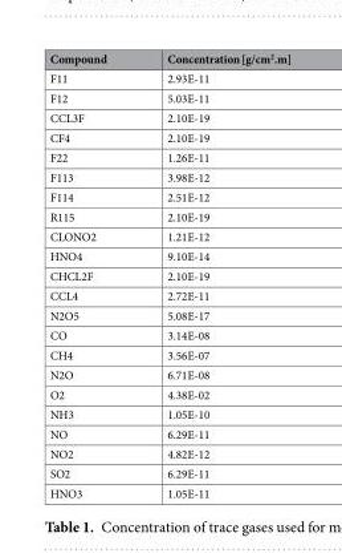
<table><thead><tr><td>Compound</td><td>Concentration [g/cm<sup>2</sup>.m]</td></tr></thead><tbody><tr><td>F11</td><td>2.93E-11</td></tr><tr><td>F12</td><td>5.03E-11</td></tr><tr><td>CCL3F</td><td>2.10E-19</td></tr><tr><td>CF4</td><td>2.10E-19</td></tr><tr><td>F22</td><td>1.26E-11</td></tr><tr><td>F113</td><td>3.98E-12</td></tr><tr><td>F114</td><td>2.51E-12</td></tr><tr><td>R115</td><td>2.10E-19</td></tr><tr><td>CLONO2</td><td>1.21E-12</td></tr><tr><td>HNO4</td><td>9.10E-14</td></tr><tr><td>CHCL2F</td><td>2.10E-19</td></tr><tr><td>CCL4</td><td>2.72E-11</td></tr><tr><td>N2O5</td><td>5.08E-17</td></tr><tr><td>CO</td><td>3.14E-08</td></tr><tr><td>CH4</td><td>3.56E-07</td></tr><tr><td>N2O</td><td>6.71E-08</td></tr><tr><td>O2</td><td>4.38E-02</td></tr><tr><td>NH3</td><td>1.05E-10</td></tr><tr><td>NO</td><td>6.29E-11</td></tr><tr><td>NO2</td><td>4.82E-12</td></tr><tr><td>SO2</td><td>6.29E-11</td></tr><tr><td>HNO3</td><td>1.05E-11</td></tr></tbody></table>